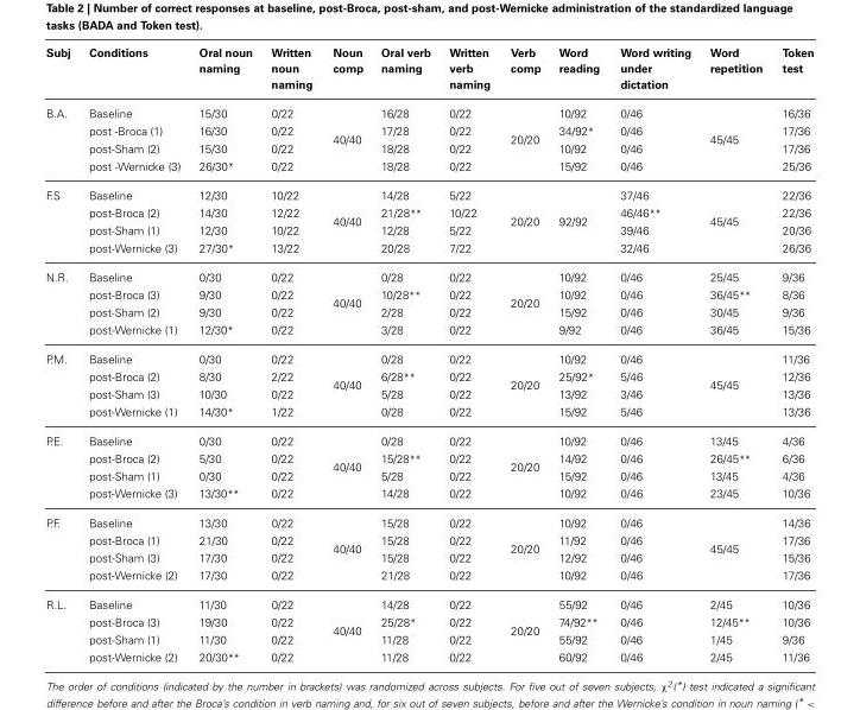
<table><thead><tr><td>Subj</td><td>Conditions</td><td>Oral noun naming</td><td>Written noun naming</td><td>Noun comp</td><td>Oral verb naming</td><td>Written verb naming</td><td>Verb comp</td><td>Word reading</td><td>Word writing under dictation</td><td>Word repetition</td><td>Token test</td></tr></thead><tbody><tr><td rowspan="4">B.A.</td><td>Baseline</td><td>15/30</td><td>0/22</td><td></td><td>16/28</td><td>0/22</td><td></td><td>10/92</td><td>0/46</td><td></td><td>16/36</td></tr><tr><td>post -Broca (1)</td><td>16/30</td><td>0/22</td><td rowspan="2">40/40</td><td>17/28</td><td>0/22</td><td rowspan="2">20/20</td><td>34/92*</td><td>0/46</td><td rowspan="2">45/45</td><td>17/36</td></tr><tr><td>post-Sham (2)</td><td>15/30</td><td>0/22</td><td>18/28</td><td>0/22</td><td>10/92</td><td>0/46</td><td>17/36</td></tr><tr><td>post -Wernicke (3)</td><td>26/30*</td><td>0/22</td><td></td><td>18/28</td><td>0/22</td><td></td><td>15/92</td><td>0/46</td><td></td><td>25/36</td></tr><tr><td rowspan="4">F.S</td><td>Baseline</td><td>12/30</td><td>10/22</td><td></td><td>14/28</td><td>5/22</td><td></td><td></td><td>37/46</td><td></td><td>22/36</td></tr><tr><td>post-Broca (2)</td><td>14/30</td><td>12/22</td><td rowspan="2">40/40</td><td>21/28**</td><td>10/22</td><td rowspan="2">20/20</td><td rowspan="2">92/92</td><td>46/46**</td><td rowspan="2">45/45</td><td>22/36</td></tr><tr><td>post-Sham (1)</td><td>12/30</td><td>10/22</td><td>12/28</td><td>5/22</td><td>39/46</td><td>20/36</td></tr><tr><td>post-Wernicke (3)</td><td>27/30*</td><td>13/22</td><td></td><td>20/28</td><td>7/22</td><td></td><td></td><td>32/46</td><td></td><td>26/36</td></tr><tr><td rowspan="4">N.R.</td><td>Baseline</td><td>0/30</td><td>0/22</td><td></td><td>0/28</td><td>0/22</td><td></td><td>10/92</td><td>0/46</td><td>25/45</td><td>9/36</td></tr><tr><td>post-Broca (3)</td><td>9/30</td><td>0/22</td><td rowspan="2">40/40</td><td>10/28**</td><td>0/22</td><td rowspan="2">20/20</td><td>10/92</td><td>0/46</td><td>36/45**</td><td>8/36</td></tr><tr><td>post-Sham (2)</td><td>9/30</td><td>0/22</td><td>2/28</td><td>0/22</td><td>15/92</td><td>0/46</td><td>30/45</td><td>9/36</td></tr><tr><td>post-Wernicke (1)</td><td>12/30*</td><td>0/22</td><td></td><td>3/28</td><td>0/22</td><td></td><td>9/92</td><td>0/46</td><td>36/45</td><td>15/36</td></tr><tr><td rowspan="4">P.M.</td><td>Baseline</td><td>0/30</td><td>0/22</td><td></td><td>0/28</td><td>0/22</td><td></td><td>10/92</td><td>0/46</td><td></td><td>11/36</td></tr><tr><td>post-Broca (2)</td><td>8/30</td><td>2/22</td><td rowspan="2">40/40</td><td>6/28**</td><td>0/22</td><td rowspan="2">20/20</td><td>25/92*</td><td>5/46</td><td rowspan="2">45/45</td><td>12/36</td></tr><tr><td>post-Sham (3)</td><td>10/30</td><td>0/22</td><td>5/28</td><td>0/22</td><td>13/92</td><td>3/46</td><td>13/36</td></tr><tr><td>post-Wernicke (1)</td><td>14/30*</td><td>1/22</td><td></td><td>0/28</td><td>0/22</td><td></td><td>15/92</td><td>5/46</td><td></td><td>13/36</td></tr><tr><td rowspan="4">P.E.</td><td>Baseline</td><td>0/30</td><td>0/22</td><td></td><td>0/28</td><td>0/22</td><td></td><td>10/92</td><td>0/46</td><td>13/45</td><td>4/36</td></tr><tr><td>post-Broca (2)</td><td>5/30</td><td>0/22</td><td rowspan="2">40/40</td><td>15/28**</td><td>0/22</td><td rowspan="2">20/20</td><td>14/92</td><td>0/46</td><td>26/45**</td><td>6/36</td></tr><tr><td>post-Sham (1)</td><td>0/30</td><td>0/22</td><td>5/28</td><td>0/22</td><td>15/92</td><td>0/46</td><td>13/45</td><td>4/36</td></tr><tr><td>post-Wernicke (3)</td><td>13/30**</td><td>0/22</td><td></td><td>14/28</td><td>0/22</td><td></td><td>10/92</td><td>0/46</td><td>23/45</td><td>10/36</td></tr><tr><td rowspan="4">P.F.</td><td>Baseline</td><td>13/30</td><td>0/22</td><td></td><td>15/28</td><td>0/22</td><td></td><td>10/92</td><td>0/46</td><td></td><td>14/36</td></tr><tr><td>post-Broca (1)</td><td>21/30</td><td>0/22</td><td rowspan="2">40/40</td><td>15/28</td><td>0/22</td><td rowspan="2">20/20</td><td>11/92</td><td>0/46</td><td rowspan="2">45/45</td><td>17/36</td></tr><tr><td>post-Sham (3)</td><td>17/30</td><td>0/22</td><td>15/28</td><td>0/22</td><td>12/92</td><td>0/46</td><td>15/36</td></tr><tr><td>post-Wernicke (2)</td><td>17/30</td><td>0/22</td><td></td><td>21/28</td><td>0/22</td><td></td><td>10/92</td><td>0/46</td><td></td><td>17/36</td></tr><tr><td rowspan="4">R.L.</td><td>Baseline</td><td>11/30</td><td>0/22</td><td></td><td>14/28</td><td>0/22</td><td></td><td>55/92</td><td>0/46</td><td>2/45</td><td>10/36</td></tr><tr><td>post-Broca (3)</td><td>19/30</td><td>0/22</td><td rowspan="2">40/40</td><td>25/28*</td><td>0/22</td><td rowspan="2">20/20</td><td>74/92**</td><td>0/46</td><td>12/45**</td><td>10/36</td></tr><tr><td>post-Sham (1)</td><td>11/30</td><td>0/22</td><td>11/28</td><td>0/22</td><td>55/92</td><td>0/46</td><td>1/45</td><td>9/36</td></tr><tr><td>post-Wernicke (2)</td><td>20/30**</td><td>0/22</td><td></td><td>11/28</td><td>0/22</td><td></td><td>60/92</td><td>0/46</td><td>2/45</td><td>11/36</td></tr></tbody></table>